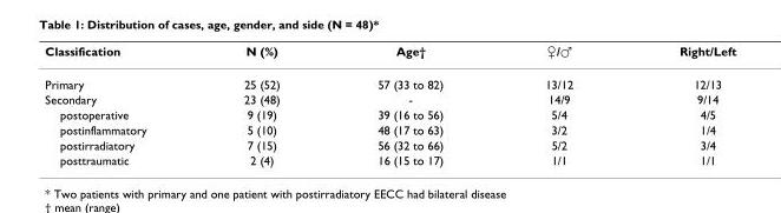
<table><thead><tr><td>Classification</td><td>N (%)</td><td>Age†</td><td>♀/♂</td><td>Right/Left</td></tr></thead><tbody><tr><td>Primary</td><td>25 (52)</td><td>57 (33 to 82)</td><td>13/12</td><td>12/13</td></tr><tr><td>Secondary</td><td>23 (48)</td><td>-</td><td>14/9</td><td>9/14</td></tr><tr><td>postoperative</td><td>9 (19)</td><td>39 (16 to 56)</td><td>5/4</td><td>4/5</td></tr><tr><td>postinflammatory</td><td>5 (10)</td><td>48 (17 to 63)</td><td>3/2</td><td>1/4</td></tr><tr><td>postirradiatory</td><td>7 (15)</td><td>56 (32 to 66)</td><td>5/2</td><td>3/4</td></tr><tr><td>posttraumatic</td><td>2 (4)</td><td>16 (15 to 17)</td><td>1/1</td><td>1/1</td></tr></tbody></table>